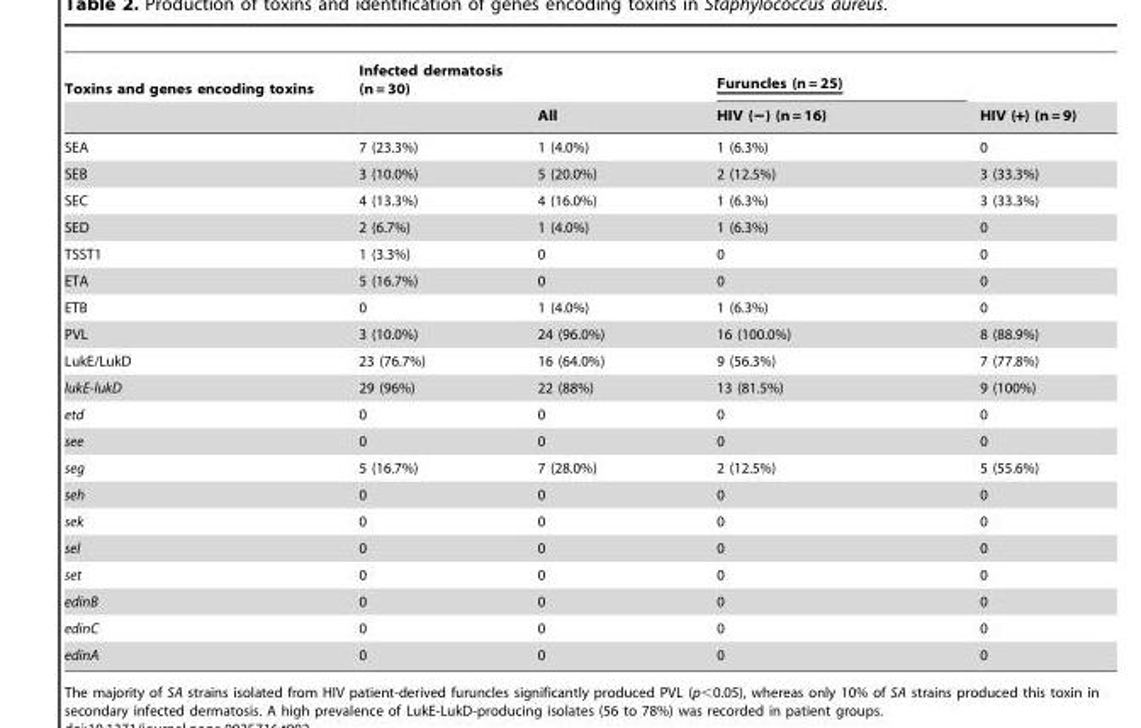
<table><thead><tr><td rowspan="2">Toxins and genes encoding toxins</td><td rowspan="2">Infected dermatosis (n = 30)</td><td rowspan="2">All</td><td rowspan="2">Furuncles (n = 25) HIV (−) (n = 16)</td><td rowspan="2">HIV (+) (n = 9)</td></tr><tr></tr></thead><tbody><tr><td>SEA</td><td>7 (23.3%)</td><td>1 (4.0%)</td><td>1 (6.3%)</td><td>0</td></tr><tr><td>SEB</td><td>3 (10.0%)</td><td>5 (20.0%)</td><td>2 (12.5%)</td><td>3 (33.3%)</td></tr><tr><td>SEC</td><td>4 (13.3%)</td><td>4 (16.0%)</td><td>1 (6.3%)</td><td>3 (33.3%)</td></tr><tr><td>SED</td><td>2 (6.7%)</td><td>1 (4.0%)</td><td>1 (6.3%)</td><td>0</td></tr><tr><td>TSST1</td><td>1 (3.3%)</td><td>0</td><td>0</td><td>0</td></tr><tr><td>ETA</td><td>5 (16.7%)</td><td>0</td><td>0</td><td>0</td></tr><tr><td>ETB</td><td>0</td><td>1 (4.0%)</td><td>1 (6.3%)</td><td>0</td></tr><tr><td>PVL</td><td>3 (10.0%)</td><td>24 (96.0%)</td><td>16 (100.0%)</td><td>8 (88.9%)</td></tr><tr><td>LukE/LukD</td><td>23 (76.7%)</td><td>16 (64.0%)</td><td>9 (56.3%)</td><td>7 (77.8%)</td></tr><tr><td>lukE-lukD</td><td>29 (96%)</td><td>22 (88%)</td><td>13 (81.5%)</td><td>9 (100%)</td></tr><tr><td>etd</td><td>0</td><td>0</td><td>0</td><td>0</td></tr><tr><td>see</td><td>0</td><td>0</td><td>0</td><td>0</td></tr><tr><td>seg</td><td>5 (16.7%)</td><td>7 (28.0%)</td><td>2 (12.5%)</td><td>5 (55.6%)</td></tr><tr><td>seh</td><td>0</td><td>0</td><td>0</td><td>0</td></tr><tr><td>sek</td><td>0</td><td>0</td><td>0</td><td>0</td></tr><tr><td>sel</td><td>0</td><td>0</td><td>0</td><td>0</td></tr><tr><td>set</td><td>0</td><td>0</td><td>0</td><td>0</td></tr><tr><td>edinB</td><td>0</td><td>0</td><td>0</td><td>0</td></tr><tr><td>edinC</td><td>0</td><td>0</td><td>0</td><td>0</td></tr><tr><td>edinA</td><td>0</td><td>0</td><td>0</td><td>0</td></tr></tbody></table>